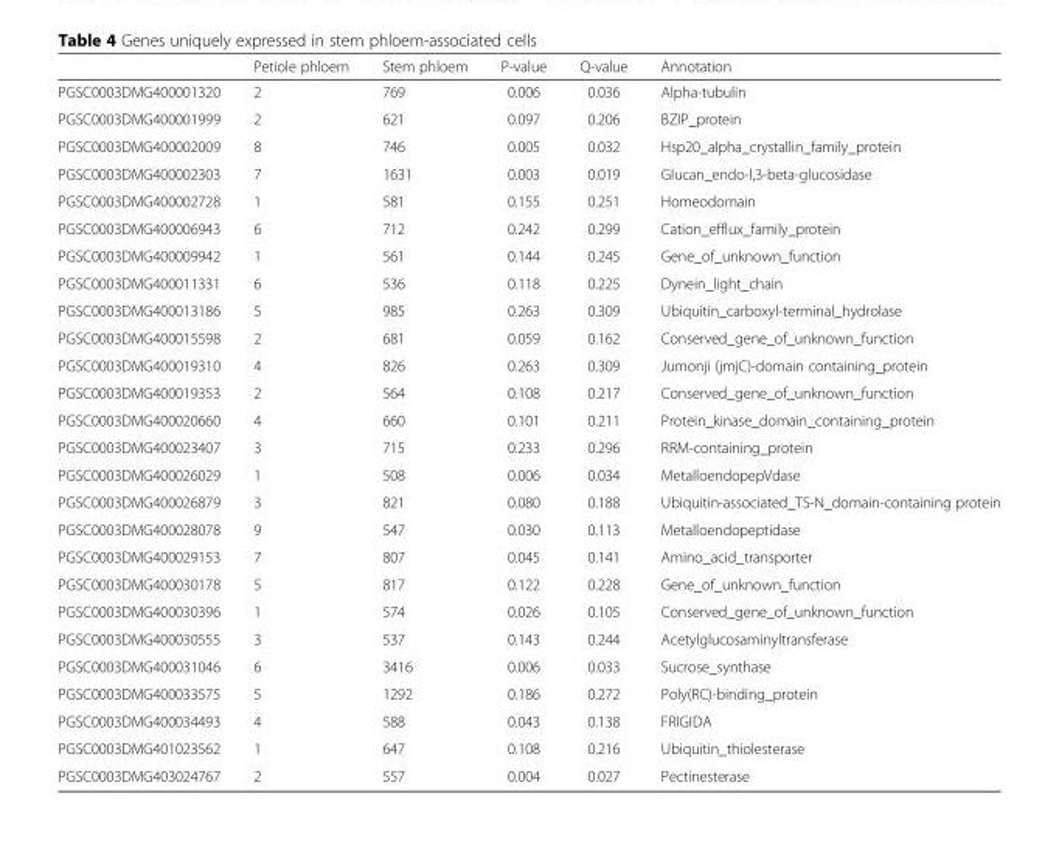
<table><thead><tr><td></td><td>Petiole phloem</td><td>Stem phloem</td><td>P-value</td><td>Q-value</td><td>Annotation</td></tr></thead><tbody><tr><td>PGSC0003DMG400001320</td><td>2</td><td>769</td><td>0.006</td><td>0.036</td><td>Alpha-tubulin</td></tr><tr><td>PGSC0003DMG400001999</td><td>2</td><td>621</td><td>0.097</td><td>0.206</td><td>BZIP_protein</td></tr><tr><td>PGSC0003DMG400002009</td><td>8</td><td>746</td><td>0.005</td><td>0.032</td><td>Hsp20_alpha_crystallin_family_protein</td></tr><tr><td>PGSC0003DMG400002303</td><td>7</td><td>1631</td><td>0.003</td><td>0.019</td><td>Glucan_endo-l,3-beta-glucosidase</td></tr><tr><td>PGSC0003DMG400002728</td><td>1</td><td>581</td><td>0.155</td><td>0.251</td><td>Homeodomain</td></tr><tr><td>PGSC0003DMG400006943</td><td>6</td><td>712</td><td>0.242</td><td>0.299</td><td>Cation_efflux_family_protein</td></tr><tr><td>PGSC0003DMG400009942</td><td>1</td><td>561</td><td>0.144</td><td>0.245</td><td>Gene_of_unknown_function</td></tr><tr><td>PGSC0003DMG400011331</td><td>6</td><td>536</td><td>0.118</td><td>0.225</td><td>Dynein_light_chain</td></tr><tr><td>PGSC0003DMG400013186</td><td>5</td><td>985</td><td>0.263</td><td>0.309</td><td>Ubiquitin_carboxyl-terminal_hydrolase</td></tr><tr><td>PGSC0003DMG400015598</td><td>2</td><td>681</td><td>0.059</td><td>0.162</td><td>Conserved_gene_of_unknown_function</td></tr><tr><td>PGSC0003DMG400019310</td><td>4</td><td>826</td><td>0.263</td><td>0.309</td><td>Jumonji (jmjC)-domain containing_protein</td></tr><tr><td>PGSC0003DMG400019353</td><td>2</td><td>564</td><td>0.108</td><td>0.217</td><td>Conserved_gene_of_unknown_function</td></tr><tr><td>PGSC0003DMG400020660</td><td>4</td><td>660</td><td>0.101</td><td>0.211</td><td>Protein_kinase_domain_containing_protein</td></tr><tr><td>PGSC0003DMG400023407</td><td>3</td><td>715</td><td>0.233</td><td>0.296</td><td>RRM-containing_protein</td></tr><tr><td>PGSC0003DMG400026029</td><td>1</td><td>508</td><td>0.006</td><td>0.034</td><td>MetalloendopepVdase</td></tr><tr><td>PGSC0003DMG400026879</td><td>3</td><td>821</td><td>0.080</td><td>0.188</td><td>Ubiquitin-associated_TS-N_domain-containing protein</td></tr><tr><td>PGSC0003DMG400028078</td><td>9</td><td>547</td><td>0.030</td><td>0.113</td><td>Metalloendopeptidase</td></tr><tr><td>PGSC0003DMG400029153</td><td>7</td><td>807</td><td>0.045</td><td>0.141</td><td>Amino_acid_transporter</td></tr><tr><td>PGSC0003DMG400030178</td><td>5</td><td>817</td><td>0.122</td><td>0.228</td><td>Gene_of_unknown_function</td></tr><tr><td>PGSC0003DMG400030396</td><td>1</td><td>574</td><td>0.026</td><td>0.105</td><td>Conserved_gene_of_unknown_function</td></tr><tr><td>PGSC0003DMG400030555</td><td>3</td><td>537</td><td>0.143</td><td>0.244</td><td>Acetylglucosaminyltransferase</td></tr><tr><td>PGSC0003DMG400031046</td><td>6</td><td>3416</td><td>0.006</td><td>0.033</td><td>Sucrose_synthase</td></tr><tr><td>PGSC0003DMG400033575</td><td>5</td><td>1292</td><td>0.186</td><td>0.272</td><td>Poly(RC)-binding_protein</td></tr><tr><td>PGSC0003DMG400034493</td><td>4</td><td>588</td><td>0.043</td><td>0.138</td><td>FRIGIDA</td></tr><tr><td>PGSC0003DMG401023562</td><td>1</td><td>647</td><td>0.108</td><td>0.216</td><td>Ubiquitin_thiolesterase</td></tr><tr><td>PGSC0003DMG403024767</td><td>2</td><td>557</td><td>0.004</td><td>0.027</td><td>Pectinesterase</td></tr></tbody></table>